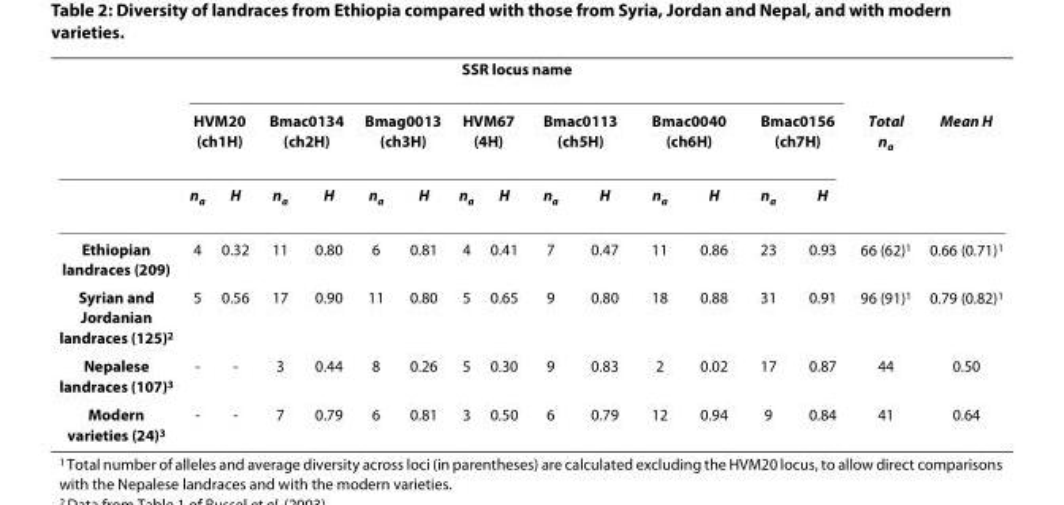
<table><thead><tr><td rowspan="3"></td><td colspan="14">SSR locus name</td><td rowspan="3">Total n<sub>a</sub></td><td rowspan="3">Mean H</td></tr><tr><td colspan="2">HVM20 (ch1H)</td><td colspan="2">Bmac0134 (ch2H)</td><td colspan="2">Bmag0013 (ch3H)</td><td colspan="2">HVM67 (4H)</td><td colspan="2">Bmac0113 (ch5H)</td><td colspan="2">Bmac0040 (ch6H)</td><td colspan="2">Bmac0156 (ch7H)</td></tr><tr><td>n<sub>a</sub></td><td>H</td><td>n<sub>a</sub></td><td>H</td><td>n<sub>a</sub></td><td>H</td><td>n<sub>a</sub></td><td>H</td><td>n<sub>a</sub></td><td>H</td><td>n<sub>a</sub></td><td>H</td><td>n<sub>a</sub></td><td>H</td></tr></thead><tbody><tr><td>Ethiopian landraces (209)</td><td>4</td><td>0.32</td><td>11</td><td>0.80</td><td>6</td><td>0.81</td><td>4</td><td>0.41</td><td>7</td><td>0.47</td><td>11</td><td>0.86</td><td>23</td><td>0.93</td><td>66 (62)<sup>1</sup></td><td>0.66 (0.71)<sup>1</sup></td></tr><tr><td>Syrian and Jordanian landraces (125)<sup>2</sup></td><td>5</td><td>0.56</td><td>17</td><td>0.90</td><td>11</td><td>0.80</td><td>5</td><td>0.65</td><td>9</td><td>0.80</td><td>18</td><td>0.88</td><td>31</td><td>0.91</td><td>96 (91)<sup>1</sup></td><td>0.79 (0.82)<sup>1</sup></td></tr><tr><td>Nepalese landraces (107)<sup>3</sup></td><td>-</td><td>-</td><td>3</td><td>0.44</td><td>8</td><td>0.26</td><td>5</td><td>0.30</td><td>9</td><td>0.83</td><td>2</td><td>0.02</td><td>17</td><td>0.87</td><td>44</td><td>0.50</td></tr><tr><td>Modern varieties (24)<sup>3</sup></td><td>-</td><td>-</td><td>7</td><td>0.79</td><td>6</td><td>0.81</td><td>3</td><td>0.50</td><td>6</td><td>0.79</td><td>12</td><td>0.94</td><td>9</td><td>0.84</td><td>41</td><td>0.64</td></tr></tbody></table>